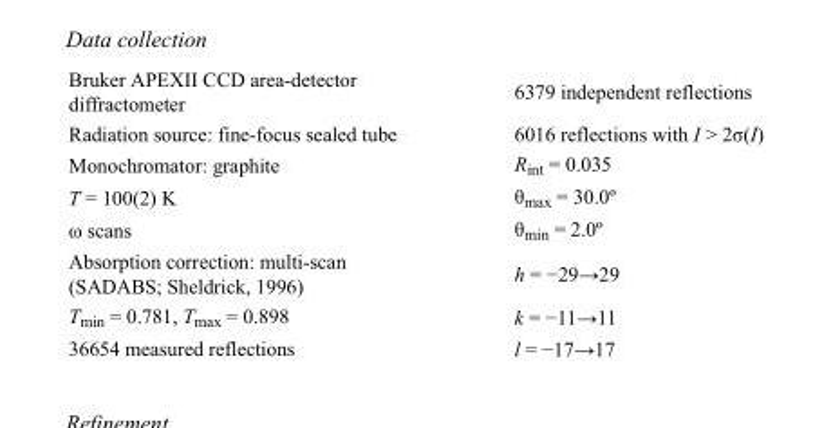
<table><tbody><tr><td>Bruker APEXII CCD area-detector diffractometer</td><td>6379 independent reflections</td></tr><tr><td>Radiation source: fine-focus sealed tube</td><td>6016 reflections with I &gt; 2σ(I)</td></tr><tr><td>Monochromator: graphite</td><td>R<sub>int</sub> = 0.035</td></tr><tr><td>T = 100(2) K</td><td>θ<sub>max</sub> = 30.0º</td></tr><tr><td>ω scans</td><td>θ<sub>min</sub> = 2.0º</td></tr><tr><td>Absorption correction: multi-scan (SADABS; Sheldrick, 1996)</td><td>h = −29→29</td></tr><tr><td>T<sub>min</sub> = 0.781, T<sub>max</sub> = 0.898</td><td>k = −11→11</td></tr><tr><td>36654 measured reflections</td><td>l = −17→17</td></tr></tbody></table>